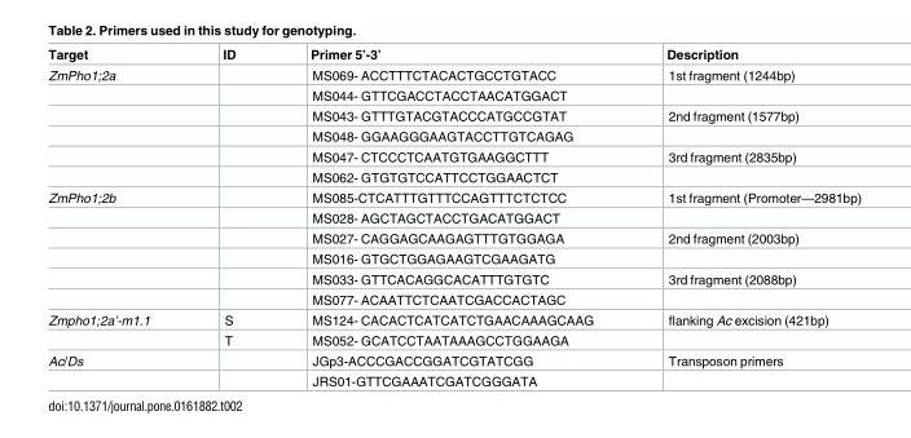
<table><thead><tr><td>Target</td><td>ID</td><td>Primer 5’-3’</td><td>Description</td></tr></thead><tbody><tr><td rowspan="6">ZmPho1;2a</td><td></td><td>MS069- ACCTTTCTACACTGCCTGTACC</td><td>1st fragment (1244bp)</td></tr><tr><td></td><td>MS044- GTTCGACCTACCTAACATGGACT</td><td></td></tr><tr><td></td><td>MS043- GTTTGTACGTACCCATGCCGTAT</td><td>2nd fragment (1577bp)</td></tr><tr><td></td><td>MS048- GGAAGGGAAGTACCTTGTCAGAG</td><td></td></tr><tr><td></td><td>MS047- CTCCCTCAATGTGAAGGCTTT</td><td>3rd fragment (2835bp)</td></tr><tr><td></td><td>MS062- GTGTGTCCATTCCTGGAACTCT</td><td></td></tr><tr><td rowspan="6">ZmPho1;2b</td><td></td><td>MS085-CTCATTTGTTTCCAGTTTCTCTCC</td><td>1st fragment (Promoter—2981bp)</td></tr><tr><td></td><td>MS028- AGCTAGCTACCTGACATGGACT</td><td></td></tr><tr><td></td><td>MS027- CAGGAGCAAGAGTTTGTGGAGA</td><td>2nd fragment (2003bp)</td></tr><tr><td></td><td>MS016- GTGCTGGAGAAGTCGAAGATG</td><td></td></tr><tr><td></td><td>MS033- GTTCACAGGCACATTTGTGTC</td><td>3rd fragment (2088bp)</td></tr><tr><td></td><td>MS077- ACAATTCTCAATCGACCACTAGC</td><td></td></tr><tr><td rowspan="2">Zmpho1;2a’-m1.1</td><td>S</td><td>MS124- CACACTCATCATCTGAACAAAGCAAG</td><td>flanking Ac excision (421bp)</td></tr><tr><td>T</td><td>MS052- GCATCCTAATAAAGCCTGGAAGA</td><td></td></tr><tr><td rowspan="2">Ac/Ds</td><td></td><td>JGp3-ACCCGACCGGATCGTATCGG</td><td>Transposon primers</td></tr><tr><td></td><td>JRS01-GTTCGAAATCGATCGGGATA</td><td></td></tr></tbody></table>